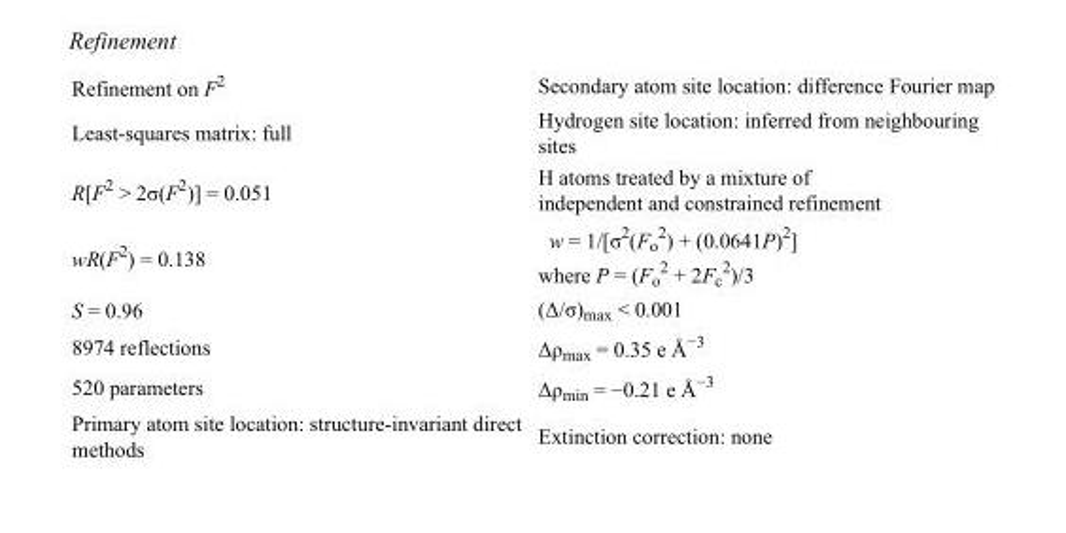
<table><tbody><tr><td>Refinement on F<sup>2</sup></td><td>Secondary atom site location: difference Fourier map</td></tr><tr><td>Least-squares matrix: full</td><td>Hydrogen site location: inferred from neighbouring sites</td></tr><tr><td>R[F<sup>2</sup> &gt; 2σ(F<sup>2</sup>)] = 0.051</td><td>H atoms treated by a mixture of independent and constrained refinement</td></tr><tr><td>wR(F<sup>2</sup>) = 0.138</td><td>w = 1/[σ<sup>2</sup>(F<sub>o</sub> <sup>2</sup>) + (0.0641P)<sup>2</sup>] where P = (F<sub>o</sub> <sup>2</sup> + 2F<sub>c</sub> <sup>2</sup>)/3</td></tr><tr><td>S = 0.96</td><td>(Δ/σ)<sub>max</sub> &lt; 0.001</td></tr><tr><td>8974 reflections</td><td>Δρ<sub>max</sub> = 0.35 e Å<sup>−3</sup></td></tr><tr><td>520 parameters</td><td>Δρ<sub>min</sub> = −0.21 e Å<sup>−3</sup></td></tr><tr><td>Primary atom site location: structure-invariant direct methods</td><td>Extinction correction: none</td></tr></tbody></table>